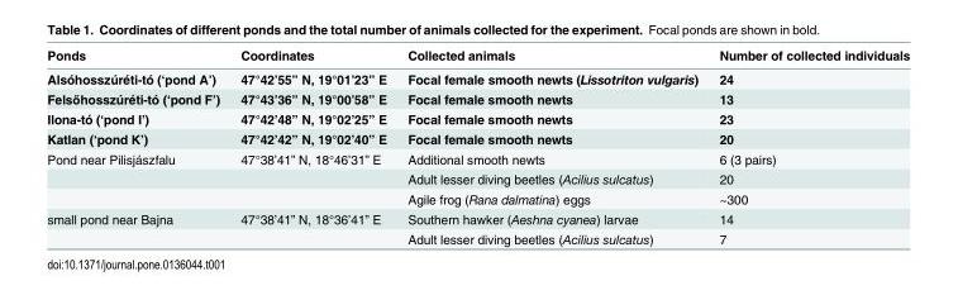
<table><thead><tr><td>Ponds</td><td>Coordinates</td><td>Collected animals</td><td>Number of collected individuals</td></tr></thead><tbody><tr><td>Alsóhosszúréti-tó (‘pond A’)</td><td>47°42’55” N, 19°01’23” E</td><td>Focal female smooth newts (Lissotriton vulgaris)</td><td>24</td></tr><tr><td>Felsőhosszúréti-tó (‘pond F’)</td><td>47°43’36” N, 19°00’58” E</td><td>Focal female smooth newts</td><td>13</td></tr><tr><td>Ilona-tó (‘pond I’)</td><td>47°42’48” N, 19°02’25” E</td><td>Focal female smooth newts</td><td>23</td></tr><tr><td>Katlan (‘pond K’)</td><td>47°42’42” N, 19°02’40” E</td><td>Focal female smooth newts</td><td>20</td></tr><tr><td rowspan="3">Pond near Pilisjászfalu</td><td>47°38’41” N, 18°46’31” E</td><td>Additional smooth newts</td><td>6 (3 pairs)</td></tr><tr><td></td><td>Adult lesser diving beetles (Acilius sulcatus)</td><td>20</td></tr><tr><td></td><td>Agile frog (Rana dalmatina) eggs</td><td>~300</td></tr><tr><td rowspan="2">small pond near Bajna</td><td>47°38’41” N, 18°36’41” E</td><td>Southern hawker (Aeshna cyanea) larvae</td><td>14</td></tr><tr><td></td><td>Adult lesser diving beetles (Acilius sulcatus)</td><td>7</td></tr></tbody></table>